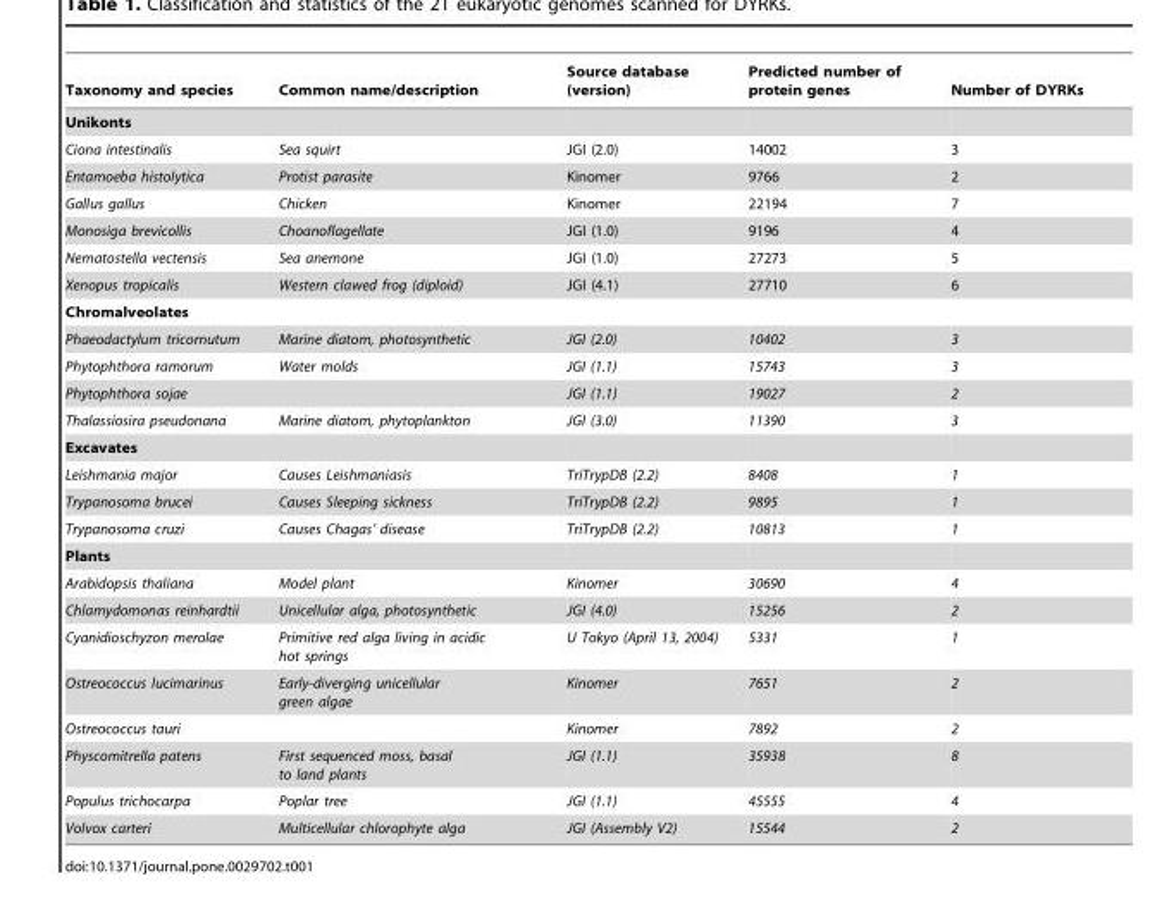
<table><thead><tr><td>Taxonomy and species</td><td>Common name/description</td><td>Source database (version)</td><td>Predicted number of protein genes</td><td>Number of DYRKs</td></tr></thead><tbody><tr><td colspan="5">Unikonts</td></tr><tr><td>Ciona intestinalis</td><td>Sea squirt</td><td>JGI (2.0)</td><td>14002</td><td>3</td></tr><tr><td>Entamoeba histolytica</td><td>Protist parasite</td><td>Kinomer</td><td>9766</td><td>2</td></tr><tr><td>Gallus gallus</td><td>Chicken</td><td>Kinomer</td><td>22194</td><td>7</td></tr><tr><td>Monosiga brevicollis</td><td>Choanoflagellate</td><td>JGI (1.0)</td><td>9196</td><td>4</td></tr><tr><td>Nematostella vectensis</td><td>Sea anemone</td><td>JGI (1.0)</td><td>27273</td><td>5</td></tr><tr><td>Xenopus tropicalis</td><td>Western clawed frog (diploid)</td><td>JGI (4.1)</td><td>27710</td><td>6</td></tr><tr><td colspan="5">Chromalveolates</td></tr><tr><td>Phaeodactylum tricornutum</td><td>Marine diatom, photosynthetic</td><td>JGI (2.0)</td><td>10402</td><td>3</td></tr><tr><td>Phytophthora ramorum</td><td>Water molds</td><td>JGI (1.1)</td><td>15743</td><td>3</td></tr><tr><td>Phytophthora sojae</td><td></td><td>JGI (1.1)</td><td>19027</td><td>2</td></tr><tr><td>Thalassiosira pseudonana</td><td>Marine diatom, phytoplankton</td><td>JGI (3.0)</td><td>11390</td><td>3</td></tr><tr><td colspan="5">Excavates</td></tr><tr><td>Leishmania major</td><td>Causes Leishmaniasis</td><td>TriTrypDB (2.2)</td><td>8408</td><td>1</td></tr><tr><td>Trypanosoma brucei</td><td>Causes Sleeping sickness</td><td>TriTrypDB (2.2)</td><td>9895</td><td>1</td></tr><tr><td>Trypanosoma cruzi</td><td>Causes Chagas’ disease</td><td>TriTrypDB (2.2)</td><td>10813</td><td>1</td></tr><tr><td colspan="5">Plants</td></tr><tr><td>Arabidopsis thaliana</td><td>Model plant</td><td>Kinomer</td><td>30690</td><td>4</td></tr><tr><td>Chlamydomonas reinhardtii</td><td>Unicellular alga, photosynthetic</td><td>JGI (4.0)</td><td>15256</td><td>2</td></tr><tr><td>Cyanidioschyzon merolae</td><td>Primitive red alga living in acidic hot springs</td><td>U Tokyo (April 13, 2004)</td><td>5331</td><td>1</td></tr><tr><td>Ostreococcus lucimarinus</td><td>Early-diverging unicellular green algae</td><td>Kinomer</td><td>7651</td><td>2</td></tr><tr><td>Ostreococcus tauri</td><td></td><td>Kinomer</td><td>7892</td><td>2</td></tr><tr><td>Physcomitrella patens</td><td>First sequenced moss, basal to land plants</td><td>JGI (1.1)</td><td>35938</td><td>8</td></tr><tr><td>Populus trichocarpa</td><td>Poplar tree</td><td>JGI (1.1)</td><td>45555</td><td>4</td></tr><tr><td>Volvox carteri</td><td>Multicellular chlorophyte alga</td><td>JGI (Assembly V2)</td><td>15544</td><td>2</td></tr></tbody></table>